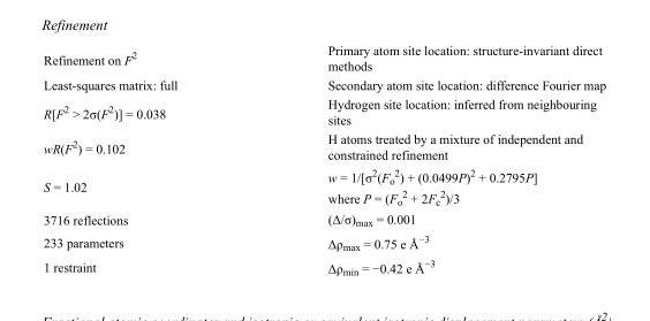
<table><tbody><tr><td>Refinement on F<sup>2</sup></td><td>Primary atom site location: structure-invariant direct methods</td></tr><tr><td>Least-squares matrix: full</td><td>Secondary atom site location: difference Fourier map</td></tr><tr><td>R[F<sup>2</sup> &gt; 2σ(F<sup>2</sup>)] = 0.038</td><td>Hydrogen site location: inferred from neighbouring sites</td></tr><tr><td>wR(F<sup>2</sup>) = 0.102</td><td>H atoms treated by a mixture of independent and constrained refinement</td></tr><tr><td>S = 1.02</td><td>w = 1/[σ<sup>2</sup>(F<sub>o</sub> <sup>2</sup>) + (0.0499P)<sup>2</sup> + 0.2795P] where P = (F<sub>o</sub> <sup>2</sup> + 2F<sub>c</sub> <sup>2</sup>)/3</td></tr><tr><td>3716 reflections</td><td>(Δ/σ)<sub>max</sub> = 0.001</td></tr><tr><td>233 parameters</td><td>Δρ<sub>max</sub> = 0.75 e Å<sup>−3</sup></td></tr><tr><td>1 restraint</td><td>Δρ<sub>min</sub> = −0.42 e Å<sup>−3</sup></td></tr></tbody></table>